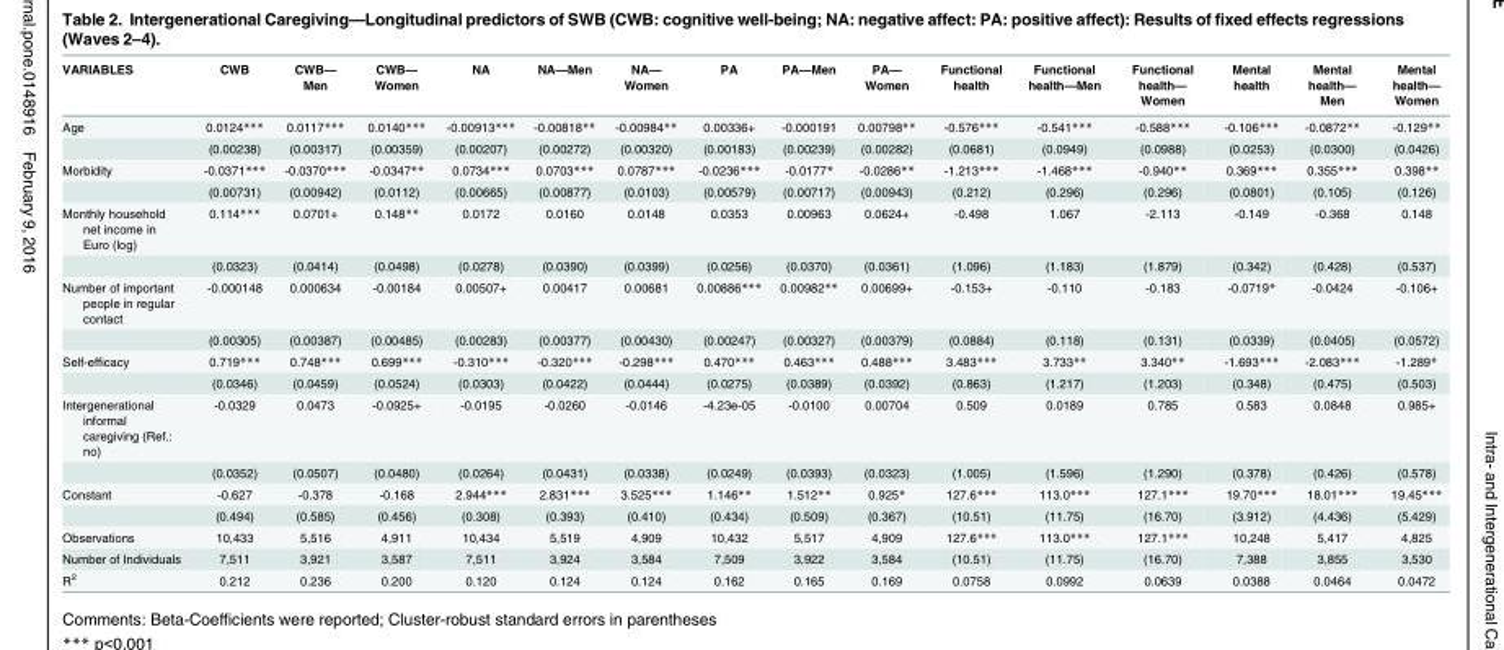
<table><thead><tr><td>VARIABLES</td><td>CWB</td><td>CWB— Men</td><td>CWB— Women</td><td>NA</td><td>NA—Men</td><td>NA— Women</td><td>PA</td><td>PA—Men</td><td>PA— Women</td><td>Functional health</td><td>Functional health—Men</td><td>Functional health— Women</td><td>Mental health</td><td>Mental health— Men</td><td>Mental health— Women</td></tr></thead><tbody><tr><td rowspan="2">Age</td><td>0.0124***</td><td>0.0117***</td><td>0.0140***</td><td>-0.00913***</td><td>-0.00818**</td><td>-0.00984**</td><td>0.00336+</td><td>-0.000191</td><td>0.00798**</td><td>-0.576***</td><td>-0.541***</td><td>-0.588***</td><td>-0.106***</td><td>-0.0872**</td><td>-0.129**</td></tr><tr><td>(0.00238)</td><td>(0.00317)</td><td>(0.00359)</td><td>(0.00207)</td><td>(0.00272)</td><td>(0.00320)</td><td>(0.00183)</td><td>(0.00239)</td><td>(0.00282)</td><td>(0.0681)</td><td>(0.0949)</td><td>(0.0988)</td><td>(0.0253)</td><td>(0.0300)</td><td>(0.0426)</td></tr><tr><td rowspan="2">Morbidity</td><td>-0.0371***</td><td>-0.0370***</td><td>-0.0347**</td><td>0.0734***</td><td>0.0703***</td><td>0.0787***</td><td>-0.0236***</td><td>-0.0177*</td><td>-0.0286**</td><td>-1.213***</td><td>-1.468***</td><td>-0.940**</td><td>0.369***</td><td>0.355***</td><td>0.398**</td></tr><tr><td>(0.00731)</td><td>(0.00942)</td><td>(0.0112)</td><td>(0.00665)</td><td>(0.00877)</td><td>(0.0103)</td><td>(0.00579)</td><td>(0.00717)</td><td>(0.00943)</td><td>(0.212)</td><td>(0.296)</td><td>(0.296)</td><td>(0.0801)</td><td>(0.105)</td><td>(0.126)</td></tr><tr><td rowspan="2">Monthly household net income in Euro (log)</td><td>0.114***</td><td>0.0701+</td><td>0.148**</td><td>0.0172</td><td>0.0160</td><td>0.0148</td><td>0.0353</td><td>0.00963</td><td>0.0624+</td><td>-0.498</td><td>1.067</td><td>-2.113</td><td>-0.149</td><td>-0.368</td><td>0.148</td></tr><tr><td>(0.0323)</td><td>(0.0414)</td><td>(0.0498)</td><td>(0.0278)</td><td>(0.0390)</td><td>(0.0399)</td><td>(0.0256)</td><td>(0.0370)</td><td>(0.0361)</td><td>(1.096)</td><td>(1.183)</td><td>(1.879)</td><td>(0.342)</td><td>(0.428)</td><td>(0.537)</td></tr><tr><td rowspan="2">Number of important people in regular contact</td><td>-0.000148</td><td>0.000634</td><td>-0.00184</td><td>0.00507+</td><td>0.00417</td><td>0.00681</td><td>0.00886***</td><td>0.00982**</td><td>0.00699+</td><td>-0.153+</td><td>-0.110</td><td>-0.183</td><td>-0.0719*</td><td>-0.0424</td><td>-0.106+</td></tr><tr><td>(0.00305)</td><td>(0.00387)</td><td>(0.00485)</td><td>(0.00283)</td><td>(0.00377)</td><td>(0.00430)</td><td>(0.00247)</td><td>(0.00327)</td><td>(0.00379)</td><td>(0.0884)</td><td>(0.118)</td><td>(0.131)</td><td>(0.0339)</td><td>(0.0405)</td><td>(0.0572)</td></tr><tr><td rowspan="2">Self-efficacy</td><td>0.719***</td><td>0.748***</td><td>0.699***</td><td>-0.310***</td><td>-0.320***</td><td>-0.298***</td><td>0.470***</td><td>0.463***</td><td>0.488***</td><td>3.483***</td><td>3.733**</td><td>3.340**</td><td>-1.693***</td><td>-2.083***</td><td>-1.289*</td></tr><tr><td>(0.0346)</td><td>(0.0459)</td><td>(0.0524)</td><td>(0.0303)</td><td>(0.0422)</td><td>(0.0444)</td><td>(0.0275)</td><td>(0.0389)</td><td>(0.0392)</td><td>(0.863)</td><td>(1.217)</td><td>(1.203)</td><td>(0.348)</td><td>(0.475)</td><td>(0.503)</td></tr><tr><td rowspan="2">Intergenerational informal caregiving (Ref.: no)</td><td>-0.0329</td><td>0.0473</td><td>-0.0925+</td><td>-0.0195</td><td>-0.0260</td><td>-0.0146</td><td>-4.23e-05</td><td>-0.0100</td><td>0.00704</td><td>0.509</td><td>0.0189</td><td>0.785</td><td>0.583</td><td>0.0848</td><td>0.985+</td></tr><tr><td>(0.0352)</td><td>(0.0507)</td><td>(0.0480)</td><td>(0.0264)</td><td>(0.0431)</td><td>(0.0338)</td><td>(0.0249)</td><td>(0.0393)</td><td>(0.0323)</td><td>(1.005)</td><td>(1.596)</td><td>(1.290)</td><td>(0.378)</td><td>(0.426)</td><td>(0.578)</td></tr><tr><td rowspan="2">Constant</td><td>-0.627</td><td>-0.378</td><td>-0.168</td><td>2.944***</td><td>2.831***</td><td>3.525***</td><td>1.146**</td><td>1.512**</td><td>0.925*</td><td>127.6***</td><td>113.0***</td><td>127.1***</td><td>19.70***</td><td>18.01***</td><td>19.45***</td></tr><tr><td>(0.494)</td><td>(0.585)</td><td>(0.456)</td><td>(0.308)</td><td>(0.393)</td><td>(0.410)</td><td>(0.434)</td><td>(0.509)</td><td>(0.367)</td><td>(10.51)</td><td>(11.75)</td><td>(16.70)</td><td>(3.912)</td><td>(4.436)</td><td>(5.429)</td></tr><tr><td>Observations</td><td>10,433</td><td>5,516</td><td>4,911</td><td>10,434</td><td>5,519</td><td>4,909</td><td>10,432</td><td>5,517</td><td>4,909</td><td>127.6***</td><td>113.0***</td><td>127.1***</td><td>10,248</td><td>5,417</td><td>4,825</td></tr><tr><td>Number of Individuals</td><td>7,511</td><td>3,921</td><td>3,587</td><td>7,511</td><td>3,924</td><td>3,584</td><td>7,509</td><td>3,922</td><td>3,584</td><td>(10.51)</td><td>(11.75)</td><td>(16.70)</td><td>7,388</td><td>3,855</td><td>3,530</td></tr><tr><td>R<sup>2</sup></td><td>0.212</td><td>0.236</td><td>0.200</td><td>0.120</td><td>0.124</td><td>0.124</td><td>0.162</td><td>0.165</td><td>0.169</td><td>0.0758</td><td>0.0992</td><td>0.0639</td><td>0.0388</td><td>0.0464</td><td>0.0472</td></tr></tbody></table>